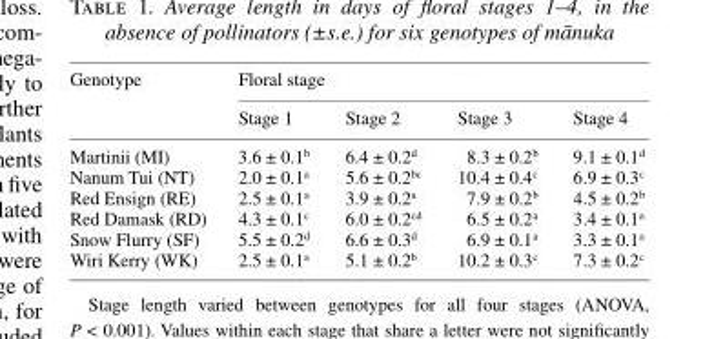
<table><thead><tr><td rowspan="2">Genotype</td><td colspan="4">Floral stage</td></tr><tr><td>Stage 1</td><td>Stage 2</td><td>Stage 3</td><td>Stage 4</td></tr></thead><tbody><tr><td>Martinii (MI)</td><td>3.6 ± 0.1<sup>b</sup></td><td>6.4 ± 0.2<sup>d</sup></td><td>8.3 ± 0.2<sup>b</sup></td><td>9.1 ± 0.1<sup>d</sup></td></tr><tr><td>Nanum Tui (NT)</td><td>2.0 ± 0.1<sup>a</sup></td><td>5.6 ± 0.2<sup>bc</sup></td><td>10.4 ± 0.4<sup>c</sup></td><td>6.9 ± 0.3<sup>c</sup></td></tr><tr><td>Red Ensign (RE)</td><td>2.5 ± 0.1<sup>a</sup></td><td>3.9 ± 0.2<sup>a</sup></td><td>7.9 ± 0.2<sup>b</sup></td><td>4.5 ± 0.2<sup>b</sup></td></tr><tr><td>Red Damask (RD)</td><td>4.3 ± 0.1<sup>c</sup></td><td>6.0 ± 0.2<sup>cd</sup></td><td>6.5 ± 0.2<sup>a</sup></td><td>3.4 ± 0.1<sup>a</sup></td></tr><tr><td>Snow Flurry (SF)</td><td>5.5 ± 0.2<sup>d</sup></td><td>6.6 ± 0.3<sup>d</sup></td><td>6.9 ± 0.1<sup>a</sup></td><td>3.3 ± 0.1<sup>a</sup></td></tr><tr><td>Wiri Kerry (WK)</td><td>2.5 ± 0.1<sup>a</sup></td><td>5.1 ± 0.2<sup>b</sup></td><td>10.2 ± 0.3<sup>c</sup></td><td>7.3 ± 0.2<sup>c</sup></td></tr></tbody></table>